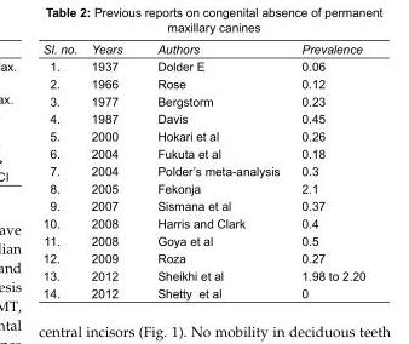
<table><tbody><tr><td>Sl. no.</td><td>Years</td><td>Authors</td><td>Prevalence</td></tr><tr><td>1.</td><td>1937</td><td>Dolder E</td><td>0.06</td></tr><tr><td>2.</td><td>1966</td><td>Rose</td><td>0.12</td></tr><tr><td>3.</td><td>1977</td><td>Bergstorm</td><td>0.23</td></tr><tr><td>4.</td><td>1987</td><td>Davis</td><td>0.45</td></tr><tr><td>5.</td><td>2000</td><td>Hokari et al</td><td>0.26</td></tr><tr><td>6.</td><td>2004</td><td>Fukuta et al</td><td>0.18</td></tr><tr><td>7.</td><td>2004</td><td>Polder’s metaanalysis</td><td>0.3</td></tr><tr><td>8.</td><td>2005</td><td>Fekonja</td><td>2.1</td></tr><tr><td>9.</td><td>2007</td><td>Sismana et al</td><td>0.37</td></tr><tr><td>10.</td><td>2008</td><td>Harris and Clark</td><td>0.4</td></tr><tr><td>11.</td><td>2008</td><td>Goya et al</td><td>0.5</td></tr><tr><td>12.</td><td>2009</td><td>Roza</td><td>0.27</td></tr><tr><td>13.</td><td>2012</td><td>Sheikhi et al</td><td>1.98 to 2.20</td></tr><tr><td>14.</td><td>2012</td><td>Shetty et al</td><td>0</td></tr></tbody></table>